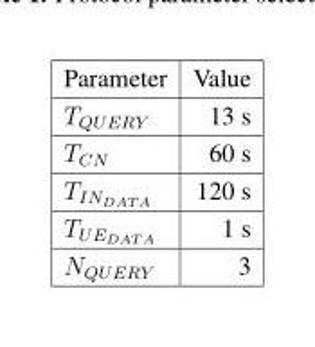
<table><thead><tr><td>Parameter</td><td>Value</td></tr></thead><tbody><tr><td>T<sub>QUERY</sub></td><td>13 s</td></tr><tr><td>T<sub>CN</sub></td><td>60 s</td></tr><tr><td>TINDAT A</td><td>120 s</td></tr><tr><td>TUEDAT A</td><td>1 s</td></tr><tr><td>N<sub>QUERY</sub></td><td>3</td></tr></tbody></table>